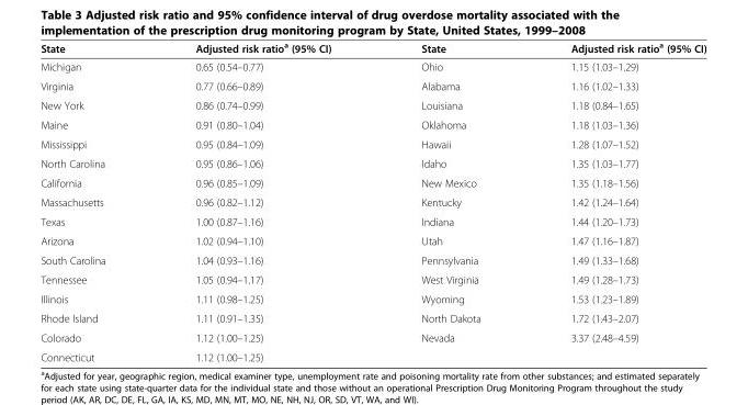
<table><thead><tr><td>State</td><td>Adjusted risk ratio<sup>a</sup> (95% CI)</td><td>State</td><td>Adjusted risk ratio<sup>a</sup> (95% CI)</td></tr></thead><tbody><tr><td>Michigan</td><td>0.65 (0.54–0.77)</td><td>Ohio</td><td>1.15 (1.03–1.29)</td></tr><tr><td>Virginia</td><td>0.77 (0.66–0.89)</td><td>Alabama</td><td>1.16 (1.02–1.33)</td></tr><tr><td>New York</td><td>0.86 (0.74–0.99)</td><td>Louisiana</td><td>1.18 (0.84–1.65)</td></tr><tr><td>Maine</td><td>0.91 (0.80–1.04)</td><td>Oklahoma</td><td>1.18 (1.03–1.36)</td></tr><tr><td>Mississippi</td><td>0.95 (0.84–1.09)</td><td>Hawaii</td><td>1.28 (1.07–1.52)</td></tr><tr><td>North Carolina</td><td>0.95 (0.86–1.06)</td><td>Idaho</td><td>1.35 (1.03–1.77)</td></tr><tr><td>California</td><td>0.96 (0.85–1.09)</td><td>New Mexico</td><td>1.35 (1.18–1.56)</td></tr><tr><td>Massachusetts</td><td>0.96 (0.82–1.12)</td><td>Kentucky</td><td>1.42 (1.24–1.64)</td></tr><tr><td>Texas</td><td>1.00 (0.87–1.16)</td><td>Indiana</td><td>1.44 (1.20–1.73)</td></tr><tr><td>Arizona</td><td>1.02 (0.94–1.10)</td><td>Utah</td><td>1.47 (1.16–1.87)</td></tr><tr><td>South Carolina</td><td>1.04 (0.93–1.16)</td><td>Pennsylvania</td><td>1.49 (1.33–1.68)</td></tr><tr><td>Tennessee</td><td>1.05 (0.94–1.17)</td><td>West Virginia</td><td>1.49 (1.28–1.73)</td></tr><tr><td>Illinois</td><td>1.11 (0.98–1.25)</td><td>Wyoming</td><td>1.53 (1.23–1.89)</td></tr><tr><td>Rhode Island</td><td>1.11 (0.91–1.35)</td><td>North Dakota</td><td>1.72 (1.43–2.07)</td></tr><tr><td>Colorado</td><td>1.12 (1.00–1.25)</td><td>Nevada</td><td>3.37 (2.48–4.59)</td></tr><tr><td>Connecticut</td><td>1.12 (1.00–1.25)</td><td></td><td></td></tr></tbody></table>